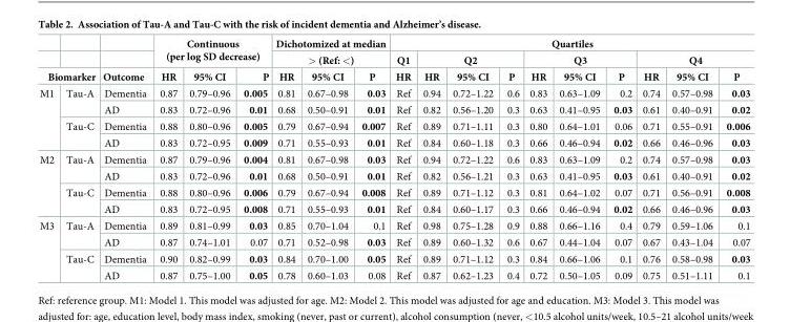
<table><thead><tr><td rowspan="2"></td><td rowspan="2"></td><td rowspan="3">Outcome</td><td rowspan="2" colspan="3">Continuous (per log SD decrease)</td><td rowspan="2" colspan="3">Dichotomized at median &gt; (Ref: &lt;)</td><td colspan="10">Quartiles</td></tr><tr><td rowspan="2">Q1 HR</td><td colspan="3">Q2</td><td colspan="3">Q3</td><td colspan="3">Q4</td></tr><tr><td colspan="2">Biomarker</td><td>HR</td><td>95% CI</td><td>P</td><td>HR</td><td>95% CI</td><td>P</td><td>HR</td><td>95% CI</td><td>P</td><td>HR</td><td>95% CI</td><td>P</td><td>HR</td><td>95% CI</td><td>P</td></tr></thead><tbody><tr><td rowspan="4">M1</td><td rowspan="2">Tau-A</td><td>Dementia</td><td>0.87</td><td>0.79–0.96</td><td>0.005</td><td>0.81</td><td>0.67–0.98</td><td>0.03</td><td>Ref</td><td>0.94</td><td>0.72–1.22</td><td>0.6</td><td>0.83</td><td>0.63–1.09</td><td>0.2</td><td>0.74</td><td>0.57–0.98</td><td>0.03</td></tr><tr><td>AD</td><td>0.83</td><td>0.72–0.96</td><td>0.01</td><td>0.68</td><td>0.50–0.91</td><td>0.01</td><td>Ref</td><td>0.82</td><td>0.56–1.20</td><td>0.3</td><td>0.63</td><td>0.41–0.95</td><td>0.03</td><td>0.61</td><td>0.40–0.91</td><td>0.02</td></tr><tr><td rowspan="2">Tau-C</td><td>Dementia</td><td>0.88</td><td>0.80–0.96</td><td>0.005</td><td>0.79</td><td>0.67–0.94</td><td>0.007</td><td>Ref</td><td>0.89</td><td>0.71–1.11</td><td>0.3</td><td>0.80</td><td>0.64–1.01</td><td>0.06</td><td>0.71</td><td>0.55–0.91</td><td>0.006</td></tr><tr><td>AD</td><td>0.83</td><td>0.72–0.95</td><td>0.009</td><td>0.71</td><td>0.55–0.93</td><td>0.01</td><td>Ref</td><td>0.84</td><td>0.60–1.18</td><td>0.3</td><td>0.66</td><td>0.46–0.94</td><td>0.02</td><td>0.66</td><td>0.46–0.96</td><td>0.03</td></tr><tr><td rowspan="4">M2</td><td rowspan="2">Tau-A</td><td>Dementia</td><td>0.87</td><td>0.79–0.96</td><td>0.004</td><td>0.81</td><td>0.67–0.98</td><td>0.03</td><td>Ref</td><td>0.94</td><td>0.72–1.22</td><td>0.6</td><td>0.83</td><td>0.63–1.09</td><td>0.2</td><td>0.74</td><td>0.57–0.98</td><td>0.03</td></tr><tr><td>AD</td><td>0.83</td><td>0.72–0.96</td><td>0.01</td><td>0.68</td><td>0.50–0.91</td><td>0.01</td><td>Ref</td><td>0.82</td><td>0.56–1.21</td><td>0.3</td><td>0.63</td><td>0.41–0.95</td><td>0.03</td><td>0.61</td><td>0.40–0.91</td><td>0.02</td></tr><tr><td rowspan="2">Tau-C</td><td>Dementia</td><td>0.88</td><td>0.80–0.96</td><td>0.006</td><td>0.79</td><td>0.67–0.94</td><td>0.008</td><td>Ref</td><td>0.89</td><td>0.71–1.12</td><td>0.3</td><td>0.81</td><td>0.64–1.02</td><td>0.07</td><td>0.71</td><td>0.56–0.91</td><td>0.008</td></tr><tr><td>AD</td><td>0.83</td><td>0.72–0.95</td><td>0.008</td><td>0.71</td><td>0.55–0.93</td><td>0.01</td><td>Ref</td><td>0.84</td><td>0.60–1.17</td><td>0.3</td><td>0.66</td><td>0.46–0.94</td><td>0.02</td><td>0.66</td><td>0.46–0.96</td><td>0.03</td></tr><tr><td rowspan="4">M3</td><td rowspan="2">Tau-A</td><td>Dementia</td><td>0.89</td><td>0.81–0.99</td><td>0.03</td><td>0.85</td><td>0.70–1.04</td><td>0.1</td><td>Ref</td><td>0.98</td><td>0.75–1.28</td><td>0.9</td><td>0.88</td><td>0.66–1.16</td><td>0.4</td><td>0.79</td><td>0.59–1.06</td><td>0.1</td></tr><tr><td>AD</td><td>0.87</td><td>0.74–1.01</td><td>0.07</td><td>0.71</td><td>0.52–0.98</td><td>0.03</td><td>Ref</td><td>0.89</td><td>0.60–1.32</td><td>0.6</td><td>0.67</td><td>0.44–1.04</td><td>0.07</td><td>0.67</td><td>0.43–1.04</td><td>0.07</td></tr><tr><td rowspan="2">Tau-C</td><td>Dementia</td><td>0.90</td><td>0.82–0.99</td><td>0.03</td><td>0.84</td><td>0.70–1.00</td><td>0.05</td><td>Ref</td><td>0.89</td><td>0.71–1.12</td><td>0.3</td><td>0.84</td><td>0.66–1.06</td><td>0.1</td><td>0.76</td><td>0.58–0.98</td><td>0.03</td></tr><tr><td>AD</td><td>0.87</td><td>0.75–1.00</td><td>0.05</td><td>0.78</td><td>0.60–1.03</td><td>0.08</td><td>Ref</td><td>0.87</td><td>0.62–1.23</td><td>0.4</td><td>0.72</td><td>0.50–1.05</td><td>0.09</td><td>0.75</td><td>0.51–1.11</td><td>0.1</td></tr></tbody></table>